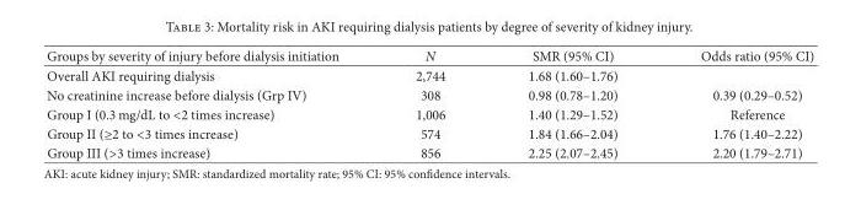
<table><thead><tr><td>Groups by severity of injury before dialysis initiation</td><td>N</td><td>SMR (95% CI)</td><td>Odds ratio (95% CI)</td></tr></thead><tbody><tr><td>Overall AKI requiring dialysis</td><td>2,744</td><td>1.68 (1.60–1.76)</td><td></td></tr><tr><td>No creatinine increase before dialysis (Grp IV)</td><td>308</td><td>0.98 (0.78–1.20)</td><td>0.39 (0.29–0.52)</td></tr><tr><td>Group I (0.3 mg/dL to &lt;2 times increase)</td><td>1,006</td><td>1.40 (1.29–1.52)</td><td>Reference</td></tr><tr><td>Group II (≥2 to &lt;3 times increase)</td><td>574</td><td>1.84 (1.66–2.04)</td><td>1.76 (1.40–2.22)</td></tr><tr><td>Group III (&gt;3 times increase)</td><td>856</td><td>2.25 (2.07–2.45)</td><td>2.20 (1.79–2.71)</td></tr></tbody></table>